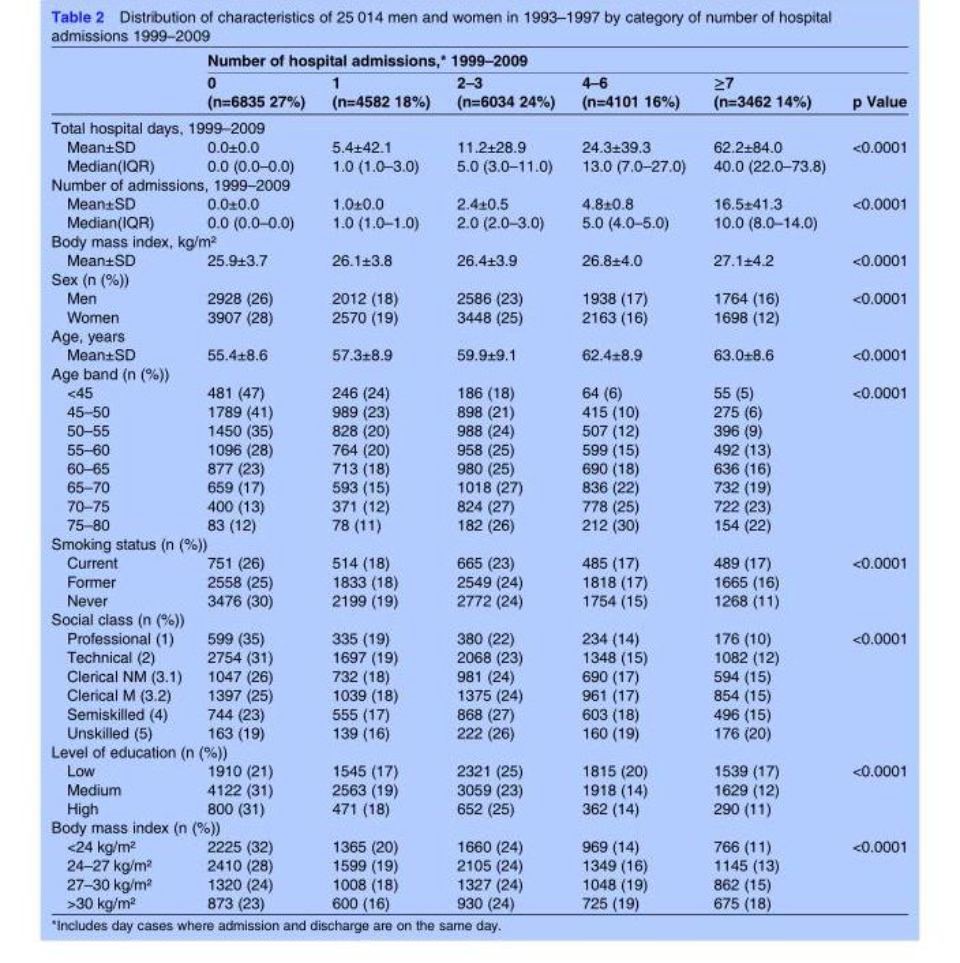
<table><thead><tr><td rowspan="2"></td><td colspan="6">Number of hospital admissions,* 1999–2009</td></tr><tr><td>0 (n=6835 27%)</td><td>1 (n=4582 18%)</td><td>2–3 (n=6034 24%)</td><td>4–6 (n=4101 16%)</td><td>≥7 (n=3462 14%)</td><td>p Value</td></tr></thead><tbody><tr><td colspan="7">Total hospital days, 1999–2009</td></tr><tr><td>Mean±SD</td><td>0.0±0.0</td><td>5.4±42.1</td><td>11.2±28.9</td><td>24.3±39.3</td><td>62.2±84.0</td><td>&lt;0.0001</td></tr><tr><td>Median(IQR)</td><td>0.0 (0.0–0.0)</td><td>1.0 (1.0–3.0)</td><td>5.0 (3.0–11.0)</td><td>13.0 (7.0–27.0)</td><td>40.0 (22.0–73.8)</td><td></td></tr><tr><td colspan="7">Number of admissions, 1999–2009</td></tr><tr><td>Mean±SD</td><td>0.0±0.0</td><td>1.0±0.0</td><td>2.4±0.5</td><td>4.8±0.8</td><td>16.5±41.3</td><td>&lt;0.0001</td></tr><tr><td>Median(IQR)</td><td>0.0 (0.0–0.0)</td><td>1.0 (1.0–1.0)</td><td>2.0 (2.0–3.0)</td><td>5.0 (4.0–5.0)</td><td>10.0 (8.0–14.0)</td><td></td></tr><tr><td colspan="7">Body mass index, kg/m²</td></tr><tr><td>Mean±SD</td><td>25.9±3.7</td><td>26.1±3.8</td><td>26.4±3.9</td><td>26.8±4.0</td><td>27.1±4.2</td><td>&lt;0.0001</td></tr><tr><td colspan="7">Sex (n (%))</td></tr><tr><td>Men</td><td>2928 (26)</td><td>2012 (18)</td><td>2586 (23)</td><td>1938 (17)</td><td>1764 (16)</td><td>&lt;0.0001</td></tr><tr><td>Women</td><td>3907 (28)</td><td>2570 (19)</td><td>3448 (25)</td><td>2163 (16)</td><td>1698 (12)</td><td></td></tr><tr><td colspan="7">Age, years</td></tr><tr><td>Mean±SD</td><td>55.4±8.6</td><td>57.3±8.9</td><td>59.9±9.1</td><td>62.4±8.9</td><td>63.0±8.6</td><td>&lt;0.0001</td></tr><tr><td colspan="7">Age band (n (%))</td></tr><tr><td>&lt;45</td><td>481 (47)</td><td>246 (24)</td><td>186 (18)</td><td>64 (6)</td><td>55 (5)</td><td>&lt;0.0001</td></tr><tr><td>45–50</td><td>1789 (41)</td><td>989 (23)</td><td>898 (21)</td><td>415 (10)</td><td>275 (6)</td><td></td></tr><tr><td>50–55</td><td>1450 (35)</td><td>828 (20)</td><td>988 (24)</td><td>507 (12)</td><td>396 (9)</td><td></td></tr><tr><td>55–60</td><td>1096 (28)</td><td>764 (20)</td><td>958 (25)</td><td>599 (15)</td><td>492 (13)</td><td></td></tr><tr><td>60–65</td><td>877 (23)</td><td>713 (18)</td><td>980 (25)</td><td>690 (18)</td><td>636 (16)</td><td></td></tr><tr><td>65–70</td><td>659 (17)</td><td>593 (15)</td><td>1018 (27)</td><td>836 (22)</td><td>732 (19)</td><td></td></tr><tr><td>70–75</td><td>400 (13)</td><td>371 (12)</td><td>824 (27)</td><td>778 (25)</td><td>722 (23)</td><td></td></tr><tr><td>75–80</td><td>83 (12)</td><td>78 (11)</td><td>182 (26)</td><td>212 (30)</td><td>154 (22)</td><td></td></tr><tr><td colspan="7">Smoking status (n (%))</td></tr><tr><td>Current</td><td>751 (26)</td><td>514 (18)</td><td>665 (23)</td><td>485 (17)</td><td>489 (17)</td><td>&lt;0.0001</td></tr><tr><td>Former</td><td>2558 (25)</td><td>1833 (18)</td><td>2549 (24)</td><td>1818 (17)</td><td>1665 (16)</td><td></td></tr><tr><td>Never</td><td>3476 (30)</td><td>2199 (19)</td><td>2772 (24)</td><td>1754 (15)</td><td>1268 (11)</td><td></td></tr><tr><td colspan="7">Social class (n (%))</td></tr><tr><td>Professional (1)</td><td>599 (35)</td><td>335 (19)</td><td>380 (22)</td><td>234 (14)</td><td>176 (10)</td><td>&lt;0.0001</td></tr><tr><td>Technical (2)</td><td>2754 (31)</td><td>1697 (19)</td><td>2068 (23)</td><td>1348 (15)</td><td>1082 (12)</td><td></td></tr><tr><td>Clerical NM (3.1)</td><td>1047 (26)</td><td>732 (18)</td><td>981 (24)</td><td>690 (17)</td><td>594 (15)</td><td></td></tr><tr><td>Clerical M (3.2)</td><td>1397 (25)</td><td>1039 (18)</td><td>1375 (24)</td><td>961 (17)</td><td>854 (15)</td><td></td></tr><tr><td>Semiskilled (4)</td><td>744 (23)</td><td>555 (17)</td><td>868 (27)</td><td>603 (18)</td><td>496 (15)</td><td></td></tr><tr><td>Unskilled (5)</td><td>163 (19)</td><td>139 (16)</td><td>222 (26)</td><td>160 (19)</td><td>176 (20)</td><td></td></tr><tr><td colspan="7">Level of education (n (%))</td></tr><tr><td>Low</td><td>1910 (21)</td><td>1545 (17)</td><td>2321 (25)</td><td>1815 (20)</td><td>1539 (17)</td><td>&lt;0.0001</td></tr><tr><td>Medium</td><td>4122 (31)</td><td>2563 (19)</td><td>3059 (23)</td><td>1918 (14)</td><td>1629 (12)</td><td></td></tr><tr><td>High</td><td>800 (31)</td><td>471 (18)</td><td>652 (25)</td><td>362 (14)</td><td>290 (11)</td><td></td></tr><tr><td colspan="7">Body mass index (n (%))</td></tr><tr><td>&lt;24 kg/m²</td><td>2225 (32)</td><td>1365 (20)</td><td>1660 (24)</td><td>969 (14)</td><td>766 (11)</td><td>&lt;0.0001</td></tr><tr><td>24–27 kg/m²</td><td>2410 (28)</td><td>1599 (19)</td><td>2105 (24)</td><td>1349 (16)</td><td>1145 (13)</td><td></td></tr><tr><td>27–30 kg/m²</td><td>1320 (24)</td><td>1008 (18)</td><td>1327 (24)</td><td>1048 (19)</td><td>862 (15)</td><td></td></tr><tr><td>&gt;30 kg/m²</td><td>873 (23)</td><td>600 (16)</td><td>930 (24)</td><td>725 (19)</td><td>675 (18)</td><td></td></tr></tbody></table>